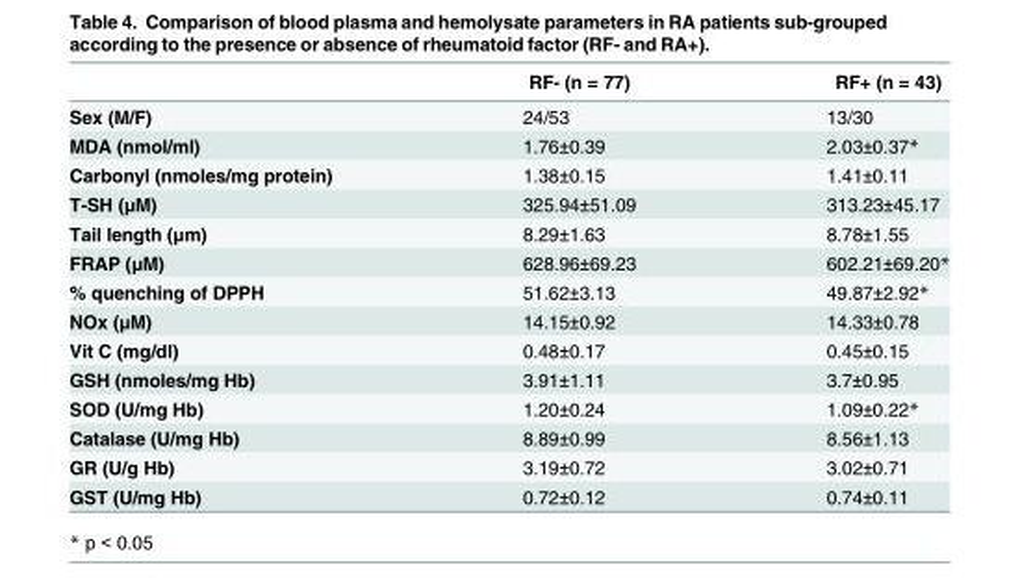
<table><thead><tr><td></td><td>RF- (n = 77)</td><td>RF+ (n = 43)</td></tr></thead><tbody><tr><td>Sex (M/F)</td><td>24/53</td><td>13/30</td></tr><tr><td>MDA (nmol/ml)</td><td>1.76±0.39</td><td>2.03±0.37*</td></tr><tr><td>Carbonyl (nmoles/mg protein)</td><td>1.38±0.15</td><td>1.41±0.11</td></tr><tr><td>T-SH (μM)</td><td>325.94±51.09</td><td>313.23±45.17</td></tr><tr><td>Tail length (μm)</td><td>8.29±1.63</td><td>8.78±1.55</td></tr><tr><td>FRAP (μM)</td><td>628.96±69.23</td><td>602.21±69.20*</td></tr><tr><td>% quenching of DPPH</td><td>51.62±3.13</td><td>49.87±2.92*</td></tr><tr><td>NOx (μM)</td><td>14.15±0.92</td><td>14.33±0.78</td></tr><tr><td>Vit C (mg/dl)</td><td>0.48±0.17</td><td>0.45±0.15</td></tr><tr><td>GSH (nmoles/mg Hb)</td><td>3.91±1.11</td><td>3.7±0.95</td></tr><tr><td>SOD (U/mg Hb)</td><td>1.20±0.24</td><td>1.09±0.22*</td></tr><tr><td>Catalase (U/mg Hb)</td><td>8.89±0.99</td><td>8.56±1.13</td></tr><tr><td>GR (U/g Hb)</td><td>3.19±0.72</td><td>3.02±0.71</td></tr><tr><td>GST (U/mg Hb)</td><td>0.72±0.12</td><td>0.74±0.11</td></tr></tbody></table>